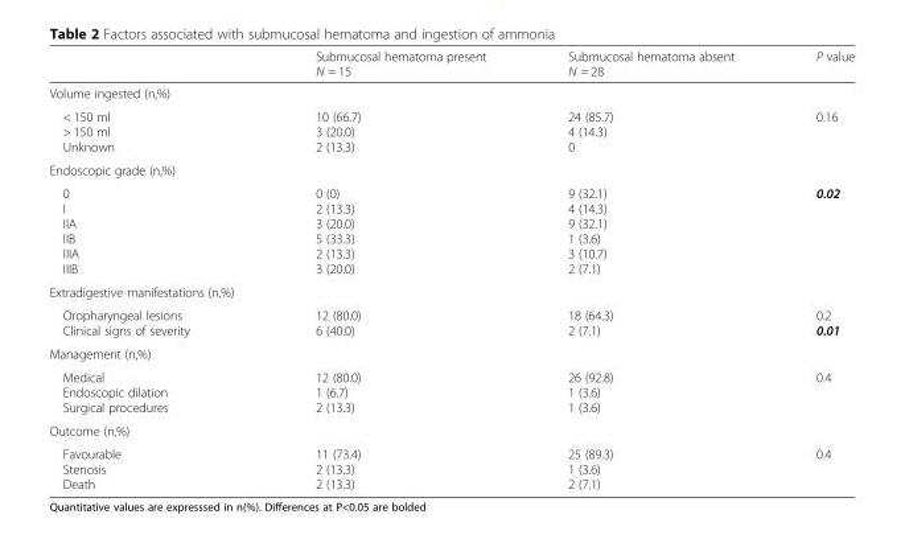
<table><thead><tr><td></td><td>Submucosal hematoma present N = 15</td><td>Submucosal hematoma absent N = 28</td><td>P value</td></tr></thead><tbody><tr><td colspan="4">Volume ingested (n,%)</td></tr><tr><td>&lt; 150 ml &gt; 150 ml Unknown</td><td>10 (66.7) 3 (20.0) 2 (13.3)</td><td>24 (85.7) 4 (14.3) 0</td><td>0.16</td></tr><tr><td colspan="4">Endoscopic grade (n,%)</td></tr><tr><td>0 I IIA IIB IIIA IIIB</td><td>0 (0) 2 (13.3) 3 (20.0) 5 (33.3) 2 (13.3) 3 (20.0)</td><td>9 (32.1) 4 (14.3) 9 (32.1) 1 (3.6) 3 (10.7) 2 (7.1)</td><td>0.02</td></tr><tr><td colspan="4">Extradigestive manifestations (n,%)</td></tr><tr><td>Oropharyngeal lesions Clinical signs of severity</td><td>12 (80.0) 6 (40.0)</td><td>18 (64.3) 2 (7.1)</td><td>0.2 0.01</td></tr><tr><td colspan="4">Management (n,%)</td></tr><tr><td>Medical Endoscopic dilation Surgical procedures</td><td>12 (80.0) 1 (6.7) 2 (13.3)</td><td>26 (92.8) 1 (3.6) 1 (3.6)</td><td>0.4</td></tr><tr><td colspan="4">Outcome (n,%)</td></tr><tr><td>Favourable Stenosis Death</td><td>11 (73.4) 2 (13.3) 2 (13.3)</td><td>25 (89.3) 1 (3.6) 2 (7.1)</td><td>0.4</td></tr></tbody></table>